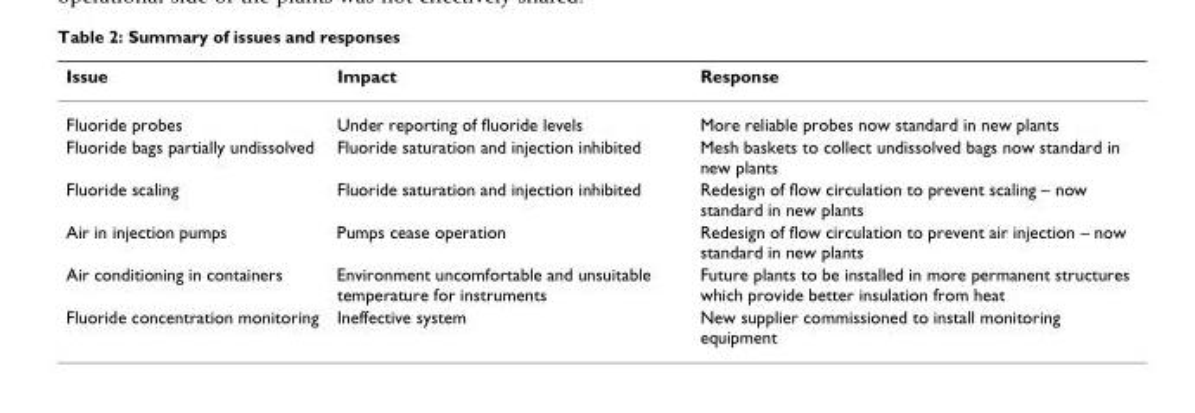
<table><thead><tr><td>Issue</td><td>Impact</td><td>Response</td></tr></thead><tbody><tr><td>Fluoride probes</td><td>Under reporting of fluoride levels</td><td>More reliable probes now standard in new plants</td></tr><tr><td>Fluoride bags partially undissolved</td><td>Fluoride saturation and injection inhibited</td><td>Mesh baskets to collect undissolved bags now standard in new plants</td></tr><tr><td>Fluoride scaling</td><td>Fluoride saturation and injection inhibited</td><td>Redesign of flow circulation to prevent scaling – now standard in new plants</td></tr><tr><td>Air in injection pumps</td><td>Pumps cease operation</td><td>Redesign of flow circulation to prevent air injection – now standard in new plants</td></tr><tr><td>Air conditioning in containers</td><td>Environment uncomfortable and unsuitable temperature for instruments</td><td>Future plants to be installed in more permanent structures which provide better insulation from heat</td></tr><tr><td>Fluoride concentration monitoring</td><td>Ineffective system</td><td>New supplier commissioned to install monitoring equipment</td></tr></tbody></table>